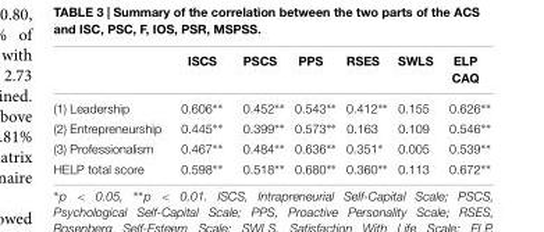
<table><thead><tr><td></td><td>ISCS</td><td>PSCS</td><td>PPS</td><td>RSES</td><td>SWLS</td><td>ELP CAQ</td></tr></thead><tbody><tr><td>(1) Leadership</td><td>0.606∗∗</td><td>0.452∗∗</td><td>0.543∗∗</td><td>0.412∗∗</td><td>0.155</td><td>0.626∗∗</td></tr><tr><td>(2) Entrepreneurship</td><td>0.445∗∗</td><td>0.399∗∗</td><td>0.573∗∗</td><td>0.163</td><td>0.109</td><td>0.546∗∗</td></tr><tr><td>(3) Professionalism</td><td>0.467∗∗</td><td>0.484∗∗</td><td>0.636∗∗</td><td>0.351∗</td><td>0.005</td><td>0.539∗∗</td></tr><tr><td>HELP total score</td><td>0.598∗∗</td><td>0.518∗∗</td><td>0.680∗∗</td><td>0.360∗∗</td><td>0.113</td><td>0.672∗∗</td></tr></tbody></table>